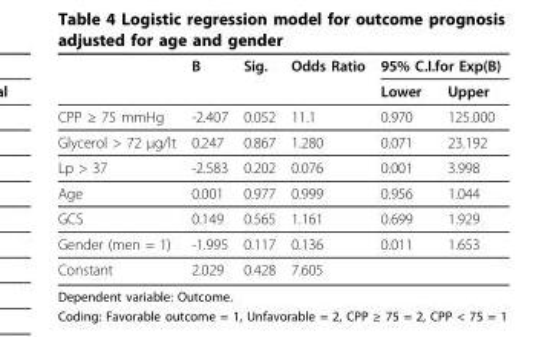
<table><thead><tr><td rowspan="2"></td><td rowspan="2">B</td><td rowspan="2">Sig.</td><td rowspan="2">Odds Ratio</td><td colspan="2">95% C.I.for Exp(B)</td></tr><tr><td>Lower</td><td>Upper</td></tr></thead><tbody><tr><td>CPP ≥ 75 mmHg</td><td>-2.407</td><td>0.052</td><td>11.1</td><td>0.970</td><td>125.000</td></tr><tr><td>Glycerol &gt; 72 μg/lt</td><td>0.247</td><td>0.867</td><td>1.280</td><td>0.071</td><td>23.192</td></tr><tr><td>Lp &gt; 37</td><td>-2.583</td><td>0.202</td><td>0.076</td><td>0.001</td><td>3.998</td></tr><tr><td>Age</td><td>0.001</td><td>0.977</td><td>0.999</td><td>0.956</td><td>1.044</td></tr><tr><td>GCS</td><td>0.149</td><td>0.565</td><td>1.161</td><td>0.699</td><td>1.929</td></tr><tr><td>Gender (men = 1)</td><td>-1.995</td><td>0.117</td><td>0.136</td><td>0.011</td><td>1.653</td></tr><tr><td>Constant</td><td>2.029</td><td>0.428</td><td>7.605</td><td></td><td></td></tr></tbody></table>